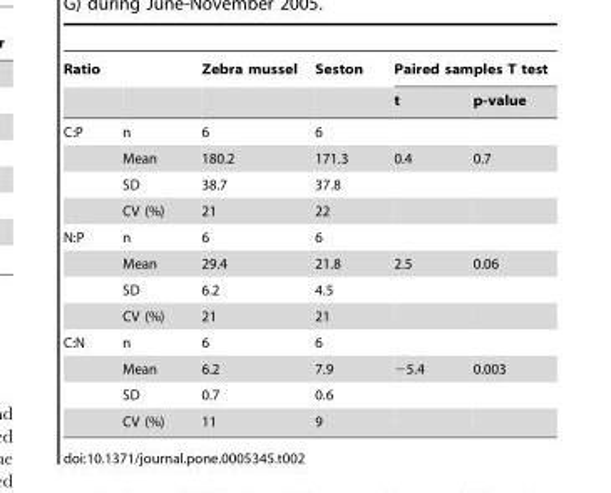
<table><thead><tr><td rowspan="2">Ratio</td><td rowspan="2"></td><td rowspan="2">Zebra mussel</td><td rowspan="2">Seston</td><td colspan="2">Paired samples T test</td></tr><tr><td>t</td><td>p-value</td></tr></thead><tbody><tr><td rowspan="4">C:P</td><td>n</td><td>6</td><td>6</td><td></td><td></td></tr><tr><td>Mean</td><td>180.2</td><td>171.3</td><td>0.4</td><td>0.7</td></tr><tr><td>SD</td><td>38.7</td><td>37.8</td><td></td><td></td></tr><tr><td>CV (%)</td><td>21</td><td>22</td><td></td><td></td></tr><tr><td rowspan="4">N:P</td><td>n</td><td>6</td><td>6</td><td></td><td></td></tr><tr><td>Mean</td><td>29.4</td><td>21.8</td><td>2.5</td><td>0.06</td></tr><tr><td>SD</td><td>6.2</td><td>4.5</td><td></td><td></td></tr><tr><td>CV (%)</td><td>21</td><td>21</td><td></td><td></td></tr><tr><td rowspan="4">C:N</td><td>n</td><td>6</td><td>6</td><td></td><td></td></tr><tr><td>Mean</td><td>6.2</td><td>7.9</td><td>−5.4</td><td>0.003</td></tr><tr><td>SD</td><td>0.7</td><td>0.6</td><td></td><td></td></tr><tr><td>CV (%)</td><td>11</td><td>9</td><td></td><td></td></tr></tbody></table>